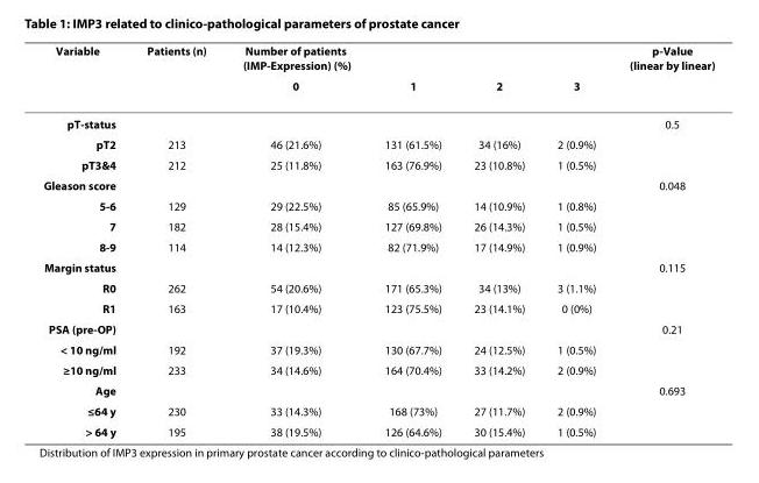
<table><thead><tr><td rowspan="2">Variable</td><td rowspan="2">Patients (n)</td><td rowspan="2">Number of patients (IMP-Expression) (%) 0</td><td rowspan="2">1</td><td rowspan="2">2</td><td rowspan="2">3</td><td rowspan="2">p-Value (linear by linear)</td></tr><tr></tr></thead><tbody><tr><td>pT-status</td><td></td><td></td><td></td><td></td><td></td><td>0.5</td></tr><tr><td>pT2</td><td>213</td><td>46 (21.6%)</td><td>131 (61.5%)</td><td>34 (16%)</td><td>2 (0.9%)</td><td></td></tr><tr><td>pT3&amp;4</td><td>212</td><td>25 (11.8%)</td><td>163 (76.9%)</td><td>23 (10.8%)</td><td>1 (0.5%)</td><td></td></tr><tr><td>Gleason score</td><td></td><td></td><td></td><td></td><td></td><td>0.048</td></tr><tr><td>5-6</td><td>129</td><td>29 (22.5%)</td><td>85 (65.9%)</td><td>14 (10.9%)</td><td>1 (0.8%)</td><td></td></tr><tr><td>7</td><td>182</td><td>28 (15.4%)</td><td>127 (69.8%)</td><td>26 (14.3%)</td><td>1 (0.5%)</td><td></td></tr><tr><td>8-9</td><td>114</td><td>14 (12.3%)</td><td>82 (71.9%)</td><td>17 (14.9%)</td><td>1 (0.9%)</td><td></td></tr><tr><td>Margin status</td><td></td><td></td><td></td><td></td><td></td><td>0.115</td></tr><tr><td>R0</td><td>262</td><td>54 (20.6%)</td><td>171 (65.3%)</td><td>34 (13%)</td><td>3 (1.1%)</td><td></td></tr><tr><td>R1</td><td>163</td><td>17 (10.4%)</td><td>123 (75.5%)</td><td>23 (14.1%)</td><td>0 (0%)</td><td></td></tr><tr><td>PSA (pre-OP)</td><td></td><td></td><td></td><td></td><td></td><td>0.21</td></tr><tr><td>&lt; 10 ng/ml</td><td>192</td><td>37 (19.3%)</td><td>130 (67.7%)</td><td>24 (12.5%)</td><td>1 (0.5%)</td><td></td></tr><tr><td>≥10 ng/ml</td><td>233</td><td>34 (14.6%)</td><td>164 (70.4%)</td><td>33 (14.2%)</td><td>2 (0.9%)</td><td></td></tr><tr><td>Age</td><td></td><td></td><td></td><td></td><td></td><td>0.693</td></tr><tr><td>≤64 y</td><td>230</td><td>33 (14.3%)</td><td>168 (73%)</td><td>27 (11.7%)</td><td>2 (0.9%)</td><td></td></tr><tr><td>&gt; 64 y</td><td>195</td><td>38 (19.5%)</td><td>126 (64.6%)</td><td>30 (15.4%)</td><td>1 (0.5%)</td><td></td></tr></tbody></table>